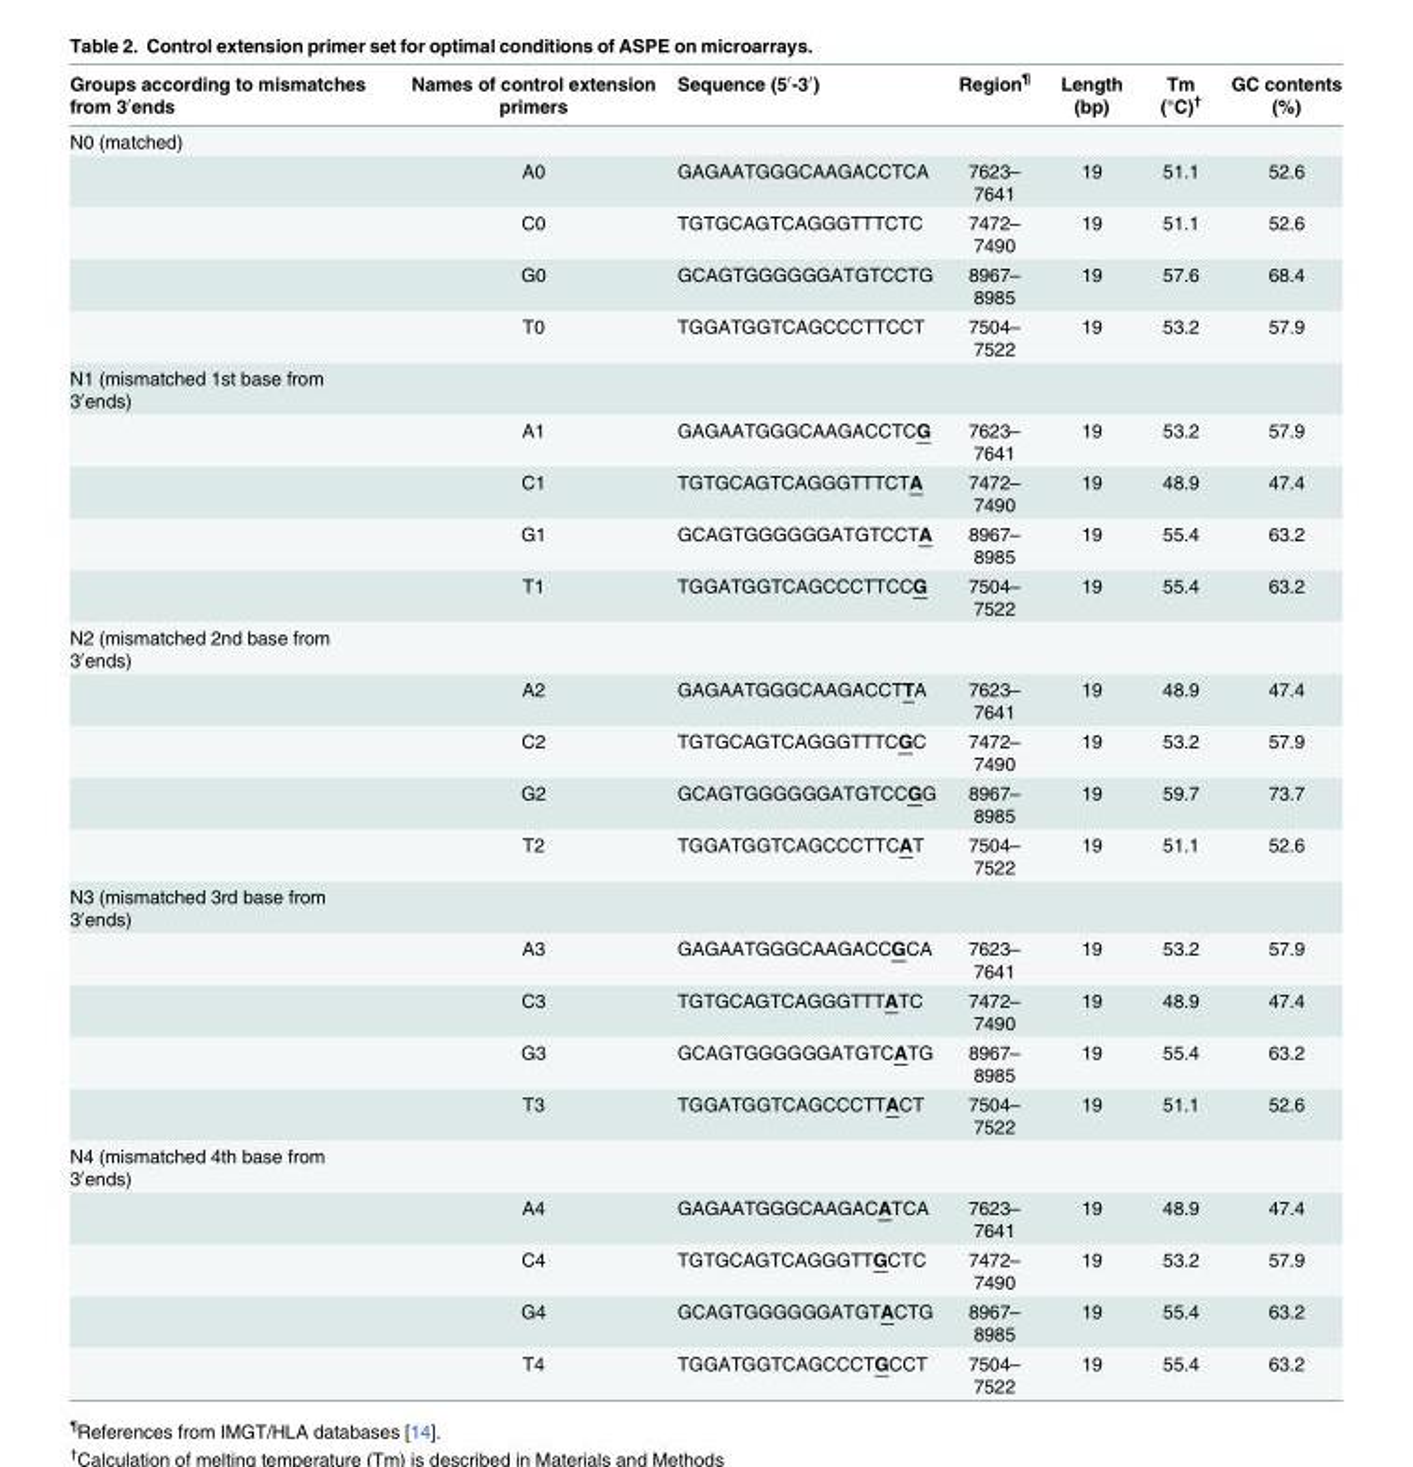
<table><thead><tr><td>Groups according to mismatches from 3′ends</td><td>Names of control extension primers</td><td>Sequence (5′-3′)</td><td>Region<sup>¶</sup></td><td>Length (bp)</td><td>Tm (°C)<sup>†</sup></td><td>GC contents (%)</td></tr></thead><tbody><tr><td colspan="7">N0 (matched)</td></tr><tr><td></td><td>A0</td><td>GAGAATGGGCAAGACCTCA</td><td>7623– 7641</td><td>19</td><td>51.1</td><td>52.6</td></tr><tr><td></td><td>C0</td><td>TGTGCAGTCAGGGTTTCTC</td><td>7472– 7490</td><td>19</td><td>51.1</td><td>52.6</td></tr><tr><td></td><td>G0</td><td>GCAGTGGGGGGATGTCCTG</td><td>8967– 8985</td><td>19</td><td>57.6</td><td>68.4</td></tr><tr><td></td><td>T0</td><td>TGGATGGTCAGCCCTTCCT</td><td>7504– 7522</td><td>19</td><td>53.2</td><td>57.9</td></tr><tr><td colspan="7">N1 (mismatched 1st base from 3′ends)</td></tr><tr><td></td><td>A1</td><td>GAGAATGGGCAAGACCTCG</td><td>7623– 7641</td><td>19</td><td>53.2</td><td>57.9</td></tr><tr><td></td><td>C1</td><td>TGTGCAGTCAGGGTTTCTA</td><td>7472– 7490</td><td>19</td><td>48.9</td><td>47.4</td></tr><tr><td></td><td>G1</td><td>GCAGTGGGGGGATGTCCTA</td><td>8967– 8985</td><td>19</td><td>55.4</td><td>63.2</td></tr><tr><td></td><td>T1</td><td>TGGATGGTCAGCCCTTCCG</td><td>7504– 7522</td><td>19</td><td>55.4</td><td>63.2</td></tr><tr><td colspan="7">N2 (mismatched 2nd base from 3′ends)</td></tr><tr><td></td><td>A2</td><td>GAGAATGGGCAAGACCTTA</td><td>7623– 7641</td><td>19</td><td>48.9</td><td>47.4</td></tr><tr><td></td><td>C2</td><td>TGTGCAGTCAGGGTTTCGC</td><td>7472– 7490</td><td>19</td><td>53.2</td><td>57.9</td></tr><tr><td></td><td>G2</td><td>GCAGTGGGGGGATGTCCGG</td><td>8967– 8985</td><td>19</td><td>59.7</td><td>73.7</td></tr><tr><td></td><td>T2</td><td>TGGATGGTCAGCCCTTCAT</td><td>7504– 7522</td><td>19</td><td>51.1</td><td>52.6</td></tr><tr><td colspan="7">N3 (mismatched 3rd base from 3′ends)</td></tr><tr><td></td><td>A3</td><td>GAGAATGGGCAAGACCGCA</td><td>7623– 7641</td><td>19</td><td>53.2</td><td>57.9</td></tr><tr><td></td><td>C3</td><td>TGTGCAGTCAGGGTTTATC</td><td>7472– 7490</td><td>19</td><td>48.9</td><td>47.4</td></tr><tr><td></td><td>G3</td><td>GCAGTGGGGGGATGTCATG</td><td>8967– 8985</td><td>19</td><td>55.4</td><td>63.2</td></tr><tr><td></td><td>T3</td><td>TGGATGGTCAGCCCTTACT</td><td>7504– 7522</td><td>19</td><td>51.1</td><td>52.6</td></tr><tr><td colspan="7">N4 (mismatched 4th base from 3′ends)</td></tr><tr><td></td><td>A4</td><td>GAGAATGGGCAAGACATCA</td><td>7623– 7641</td><td>19</td><td>48.9</td><td>47.4</td></tr><tr><td></td><td>C4</td><td>TGTGCAGTCAGGGTTGCTC</td><td>7472– 7490</td><td>19</td><td>53.2</td><td>57.9</td></tr><tr><td></td><td>G4</td><td>GCAGTGGGGGGATGTACTG</td><td>8967– 8985</td><td>19</td><td>55.4</td><td>63.2</td></tr><tr><td></td><td>T4</td><td>TGGATGGTCAGCCCTGCCT</td><td>7504– 7522</td><td>19</td><td>55.4</td><td>63.2</td></tr></tbody></table>